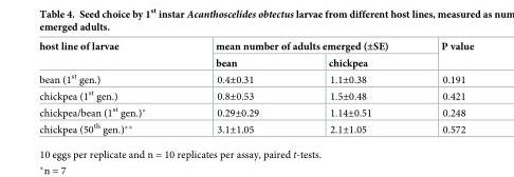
<table><thead><tr><td rowspan="2">host line of larvae</td><td colspan="2">mean number of adults emerged (±SE)</td><td rowspan="2">P value</td></tr><tr><td>bean</td><td>chickpea</td></tr></thead><tbody><tr><td>bean (1<sup>st</sup> gen.)</td><td>0.4±0.31</td><td>1.1±0.38</td><td>0.191</td></tr><tr><td>chickpea (1<sup>st</sup> gen.)</td><td>0.8±0.53</td><td>1.5±0.48</td><td>0.421</td></tr><tr><td>chickpea/bean (1<sup>st</sup> gen.)*</td><td>0.29±0.29</td><td>1.14±0.51</td><td>0.248</td></tr><tr><td>chickpea (50<sup>th</sup> gen.)**</td><td>3.1±1.05</td><td>2.1±1.05</td><td>0.572</td></tr></tbody></table>